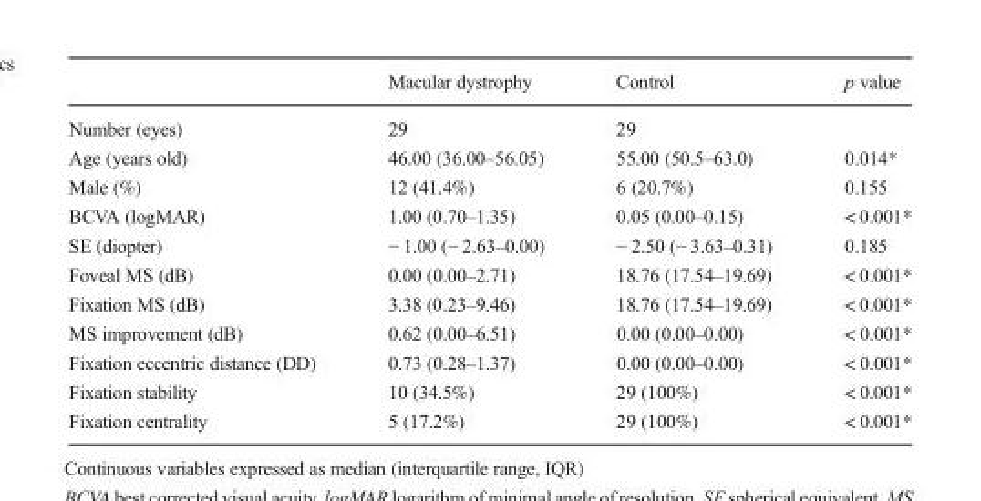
<table><thead><tr><td></td><td>Macular dystrophy</td><td>Control</td><td>p value</td></tr></thead><tbody><tr><td>Number (eyes)</td><td>29</td><td>29</td><td></td></tr><tr><td>Age (years old)</td><td>46.00 (36.00–56.05)</td><td>55.00 (50.5–63.0)</td><td>0.014*</td></tr><tr><td>Male (%)</td><td>12 (41.4%)</td><td>6 (20.7%)</td><td>0.155</td></tr><tr><td>BCVA (logMAR)</td><td>1.00 (0.70–1.35)</td><td>0.05 (0.00–0.15)</td><td>&lt; 0.001*</td></tr><tr><td>SE (diopter)</td><td>− 1.00 (− 2.63–0.00)</td><td>− 2.50 (− 3.63–0.31)</td><td>0.185</td></tr><tr><td>Foveal MS (dB)</td><td>0.00 (0.00–2.71)</td><td>18.76 (17.54–19.69)</td><td>&lt; 0.001*</td></tr><tr><td>Fixation MS (dB)</td><td>3.38 (0.23–9.46)</td><td>18.76 (17.54–19.69)</td><td>&lt; 0.001*</td></tr><tr><td>MS improvement (dB)</td><td>0.62 (0.00–6.51)</td><td>0.00 (0.00–0.00)</td><td>&lt; 0.001*</td></tr><tr><td>Fixation eccentric distance (DD)</td><td>0.73 (0.28–1.37)</td><td>0.00 (0.00–0.00)</td><td>&lt; 0.001*</td></tr><tr><td>Fixation stability</td><td>10 (34.5%)</td><td>29 (100%)</td><td>&lt; 0.001*</td></tr><tr><td>Fixation centrality</td><td>5 (17.2%)</td><td>29 (100%)</td><td>&lt; 0.001*</td></tr></tbody></table>